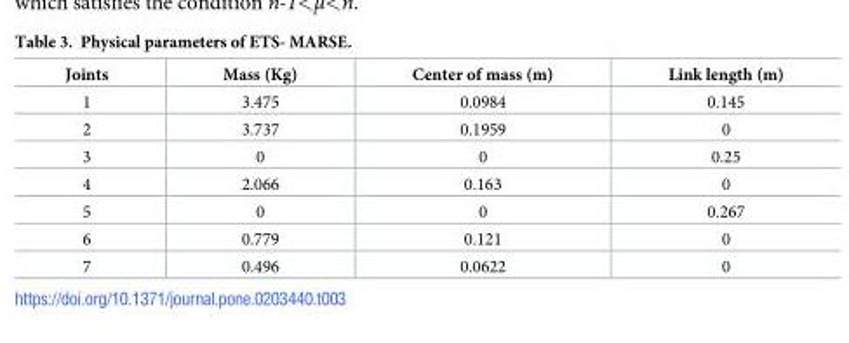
<table><thead><tr><td>Joints</td><td>Mass (Kg)</td><td>Center of mass (m)</td><td>Link length (m)</td></tr></thead><tbody><tr><td>1</td><td>3.475</td><td>0.0984</td><td>0.145</td></tr><tr><td>2</td><td>3.737</td><td>0.1959</td><td>0</td></tr><tr><td>3</td><td>0</td><td>0</td><td>0.25</td></tr><tr><td>4</td><td>2.066</td><td>0.163</td><td>0</td></tr><tr><td>5</td><td>0</td><td>0</td><td>0.267</td></tr><tr><td>6</td><td>0.779</td><td>0.121</td><td>0</td></tr><tr><td>7</td><td>0.496</td><td>0.0622</td><td>0</td></tr></tbody></table>